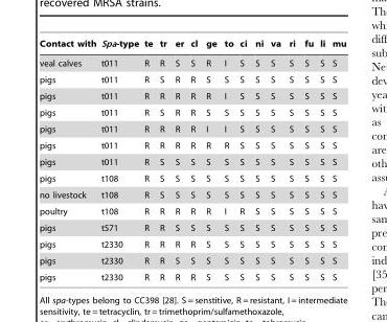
<table><thead><tr><td>Contact with</td><td>Spa-type</td><td>te</td><td>tr</td><td>er</td><td>cl</td><td>ge</td><td>to</td><td>ci</td><td>ni</td><td>va</td><td>ri</td><td>fu</td><td>li</td><td>mu</td></tr></thead><tbody><tr><td>veal calves</td><td>t011</td><td>R</td><td>R</td><td>S</td><td>S</td><td>R</td><td>I</td><td>S</td><td>S</td><td>S</td><td>S</td><td>S</td><td>S</td><td>S</td></tr><tr><td>pigs</td><td>t011</td><td>R</td><td>S</td><td>R</td><td>R</td><td>S</td><td>S</td><td>S</td><td>S</td><td>S</td><td>S</td><td>S</td><td>S</td><td>S</td></tr><tr><td>pigs</td><td>t011</td><td>R</td><td>R</td><td>R</td><td>R</td><td>R</td><td>I</td><td>S</td><td>S</td><td>S</td><td>S</td><td>S</td><td>S</td><td>S</td></tr><tr><td>pigs</td><td>t011</td><td>R</td><td>S</td><td>R</td><td>R</td><td>S</td><td>S</td><td>S</td><td>S</td><td>S</td><td>S</td><td>S</td><td>S</td><td>S</td></tr><tr><td>pigs</td><td>t011</td><td>R</td><td>R</td><td>R</td><td>R</td><td>I</td><td>I</td><td>S</td><td>S</td><td>S</td><td>S</td><td>S</td><td>S</td><td>S</td></tr><tr><td>pigs</td><td>t011</td><td>R</td><td>R</td><td>R</td><td>R</td><td>R</td><td>R</td><td>S</td><td>S</td><td>S</td><td>S</td><td>S</td><td>S</td><td>S</td></tr><tr><td>pigs</td><td>t011</td><td>R</td><td>S</td><td>S</td><td>S</td><td>S</td><td>S</td><td>S</td><td>S</td><td>S</td><td>S</td><td>S</td><td>S</td><td>S</td></tr><tr><td>pigs</td><td>t108</td><td>R</td><td>S</td><td>S</td><td>S</td><td>S</td><td>S</td><td>S</td><td>S</td><td>S</td><td>S</td><td>S</td><td>S</td><td>S</td></tr><tr><td>no livestock</td><td>t108</td><td>R</td><td>S</td><td>S</td><td>S</td><td>S</td><td>S</td><td>S</td><td>S</td><td>S</td><td>S</td><td>S</td><td>S</td><td>S</td></tr><tr><td>poultry</td><td>t108</td><td>R</td><td>R</td><td>R</td><td>R</td><td>R</td><td>I</td><td>R</td><td>S</td><td>S</td><td>S</td><td>S</td><td>S</td><td>S</td></tr><tr><td>pigs</td><td>t571</td><td>R</td><td>R</td><td>S</td><td>S</td><td>S</td><td>S</td><td>S</td><td>S</td><td>S</td><td>S</td><td>S</td><td>S</td><td>S</td></tr><tr><td>pigs</td><td>t2330</td><td>R</td><td>R</td><td>R</td><td>R</td><td>S</td><td>S</td><td>S</td><td>S</td><td>S</td><td>S</td><td>S</td><td>S</td><td>S</td></tr><tr><td>pigs</td><td>t2330</td><td>R</td><td>R</td><td>S</td><td>S</td><td>S</td><td>S</td><td>S</td><td>S</td><td>S</td><td>S</td><td>S</td><td>S</td><td>S</td></tr><tr><td>pigs</td><td>t2330</td><td>R</td><td>R</td><td>R</td><td>R</td><td>S</td><td>S</td><td>S</td><td>S</td><td>S</td><td>S</td><td>S</td><td>S</td><td>S</td></tr></tbody></table>